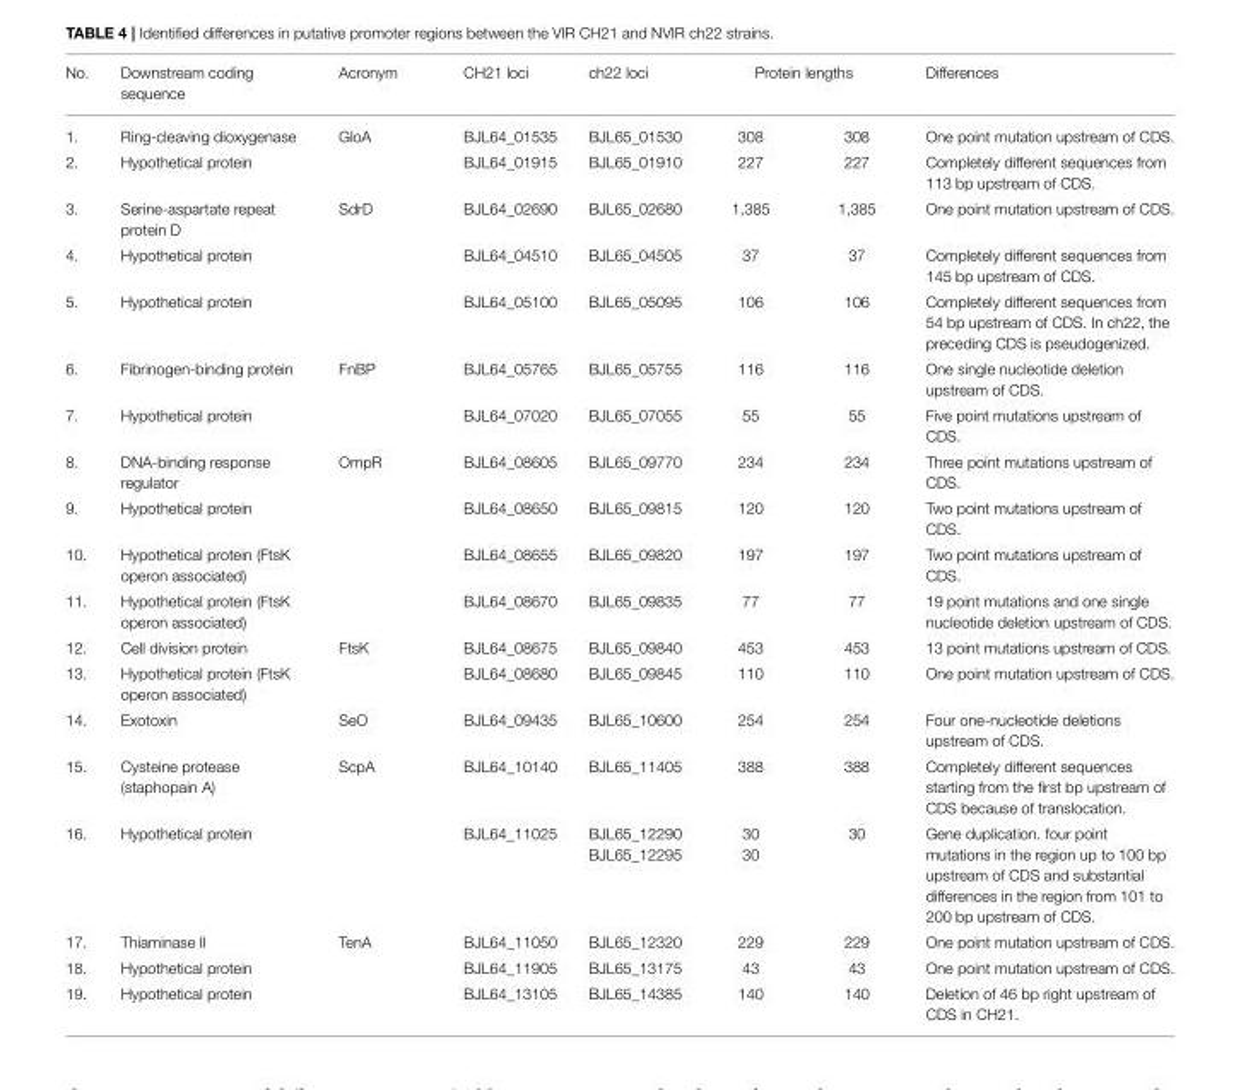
<table><thead><tr><td rowspan="2">No. 1.</td><td rowspan="2">Downstream coding sequence Ring-cleaving dioxygenase</td><td rowspan="2">Acronym GloA</td><td rowspan="2">CH21 loci BJL64_01535</td><td rowspan="2">ch22 loci BJL65_01530</td><td colspan="2">Protein lengths</td><td rowspan="2">Differences One point mutation upstream of CDS.</td></tr><tr><td>308</td><td>308</td></tr></thead><tbody><tr><td>2.</td><td>Hypothetical protein</td><td></td><td>BJL64_01915</td><td>BJL65_01910</td><td>227</td><td>227</td><td>Completely different sequences from 113 bp upstream of CDS.</td></tr><tr><td>3.</td><td>Serine-aspartate repeat protein D</td><td>SdrD</td><td>BJL64_02690</td><td>BJL65_02680</td><td>1,385</td><td>1,385</td><td>One point mutation upstream of CDS.</td></tr><tr><td>4.</td><td>Hypothetical protein</td><td></td><td>BJL64_04510</td><td>BJL65_04505</td><td>37</td><td>37</td><td>Completely different sequences from 145 bp upstream of CDS.</td></tr><tr><td>5.</td><td>Hypothetical protein</td><td></td><td>BJL64_05100</td><td>BJL65_05095</td><td>106</td><td>106</td><td>Completely different sequences from 54 bp upstream of CDS. In ch22, the preceding CDS is pseudogenized.</td></tr><tr><td>6.</td><td>Fibrinogen-binding protein</td><td>FnBP</td><td>BJL64_05765</td><td>BJL65_05755</td><td>116</td><td>116</td><td>One single nucleotide deletion upstream of CDS.</td></tr><tr><td>7.</td><td>Hypothetical protein</td><td></td><td>BJL64_07020</td><td>BJL65_07055</td><td>55</td><td>55</td><td>Five point mutations upstream of CDS.</td></tr><tr><td>8.</td><td>DNA-binding response regulator</td><td>OmpR</td><td>BJL64_08605</td><td>BJL65_09770</td><td>234</td><td>234</td><td>Three point mutations upstream of CDS.</td></tr><tr><td>9.</td><td>Hypothetical protein</td><td></td><td>BJL64_08650</td><td>BJL65_09815</td><td>120</td><td>120</td><td>Two point mutations upstream of CDS.</td></tr><tr><td>10.</td><td>Hypothetical protein (FtsK operon associated)</td><td></td><td>BJL64_08655</td><td>BJL65_09820</td><td>197</td><td>197</td><td>Two point mutations upstream of CDS.</td></tr><tr><td>11.</td><td>Hypothetical protein (FtsK operon associated)</td><td></td><td>BJL64_08670</td><td>BJL65_09835</td><td>77</td><td>77</td><td>19 point mutations and one single nucleotide deletion upstream of CDS.</td></tr><tr><td>12.</td><td>Cell division protein</td><td>FtsK</td><td>BJL64_08675</td><td>BJL65_09840</td><td>453</td><td>453</td><td>13 point mutations upstream of CDS.</td></tr><tr><td>13.</td><td>Hypothetical protein (FtsK operon associated)</td><td></td><td>BJL64_08680</td><td>BJL65_09845</td><td>110</td><td>110</td><td>One point mutation upstream of CDS.</td></tr><tr><td>14.</td><td>Exotoxin</td><td>SeO</td><td>BJL64_09435</td><td>BJL65_10600</td><td>254</td><td>254</td><td>Four one-nucleotide deletions upstream of CDS.</td></tr><tr><td>15.</td><td>Cysteine protease (staphopain A)</td><td>ScpA</td><td>BJL64_10140</td><td>BJL65_11405</td><td>388</td><td>388</td><td>Completely different sequences starting from the first bp upstream of CDS because of translocation.</td></tr><tr><td>16.</td><td>Hypothetical protein</td><td></td><td>BJL64_11025</td><td>BJL65_12290 BJL65_12295</td><td>30 30</td><td>30</td><td>Gene duplication. four point mutations in the region up to 100 bp upstream of CDS and substantial differences in the region from 101 to 200 bp upstream of CDS.</td></tr><tr><td>17.</td><td>Thiaminase II</td><td>TenA</td><td>BJL64_11050</td><td>BJL65_12320</td><td>229</td><td>229</td><td>One point mutation upstream of CDS.</td></tr><tr><td>18.</td><td>Hypothetical protein</td><td></td><td>BJL64_11905</td><td>BJL65_13175</td><td>43</td><td>43</td><td>One point mutation upstream of CDS.</td></tr><tr><td>19.</td><td>Hypothetical protein</td><td></td><td>BJL64_13105</td><td>BJL65_14385</td><td>140</td><td>140</td><td>Deletion of 46 bp right upstream of CDS in CH21.</td></tr></tbody></table>